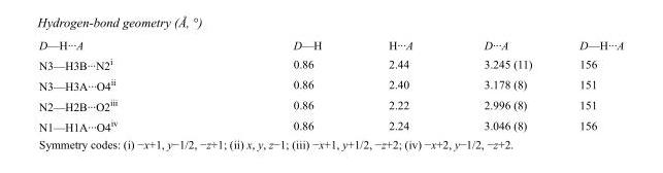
<table><tbody><tr><td>D—H···A</td><td>D—H</td><td>H···A</td><td>D···A</td><td>D—H···A</td></tr><tr><td>N3—H3B···N2<sup>i</sup></td><td>0.86</td><td>2.44</td><td>3.245 (11)</td><td>156</td></tr><tr><td>N3—H3A···O4<sup>ii</sup></td><td>0.86</td><td>2.40</td><td>3.178 (8)</td><td>151</td></tr><tr><td>N2—H2B···O2<sup>iii</sup></td><td>0.86</td><td>2.22</td><td>2.996 (8)</td><td>151</td></tr><tr><td>N1—H1A···O4<sup>iv</sup></td><td>0.86</td><td>2.24</td><td>3.046 (8)</td><td>156</td></tr></tbody></table>